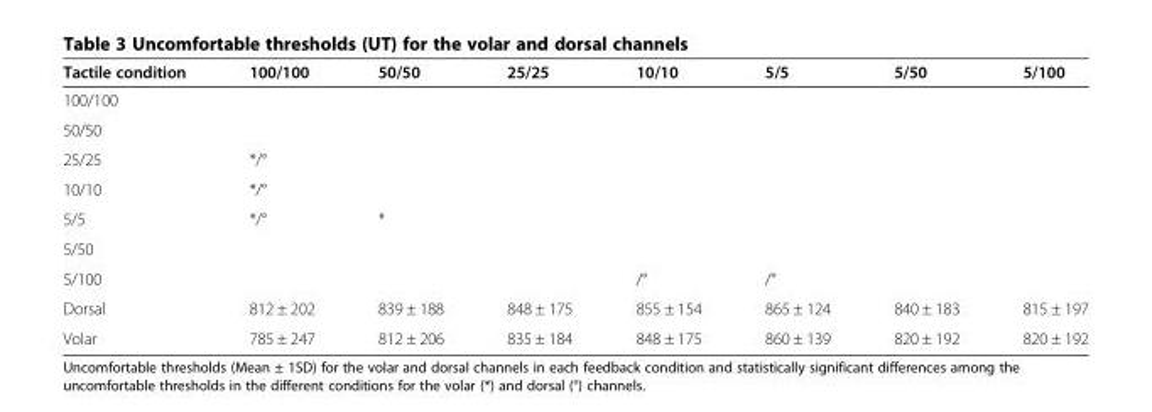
<table><thead><tr><td>Tactile condition</td><td>100/100</td><td>50/50</td><td>25/25</td><td>10/10</td><td>5/5</td><td>5/50</td><td>5/100</td></tr></thead><tbody><tr><td colspan="8">100/100</td></tr><tr><td colspan="8">50/50</td></tr><tr><td>25/25</td><td>*/°</td><td></td><td></td><td></td><td></td><td></td><td></td></tr><tr><td>10/10</td><td>*/°</td><td></td><td></td><td></td><td></td><td></td><td></td></tr><tr><td>5/5</td><td>*/°</td><td>*</td><td></td><td></td><td></td><td></td><td></td></tr><tr><td colspan="8">5/50</td></tr><tr><td>5/100</td><td></td><td></td><td></td><td>/°</td><td>/°</td><td></td><td></td></tr><tr><td>Dorsal</td><td>812 ± 202</td><td>839 ± 188</td><td>848 ± 175</td><td>855 ± 154</td><td>865 ± 124</td><td>840 ± 183</td><td>815 ± 197</td></tr><tr><td>Volar</td><td>785 ± 247</td><td>812 ± 206</td><td>835 ± 184</td><td>848 ± 175</td><td>860 ± 139</td><td>820 ± 192</td><td>820 ± 192</td></tr></tbody></table>